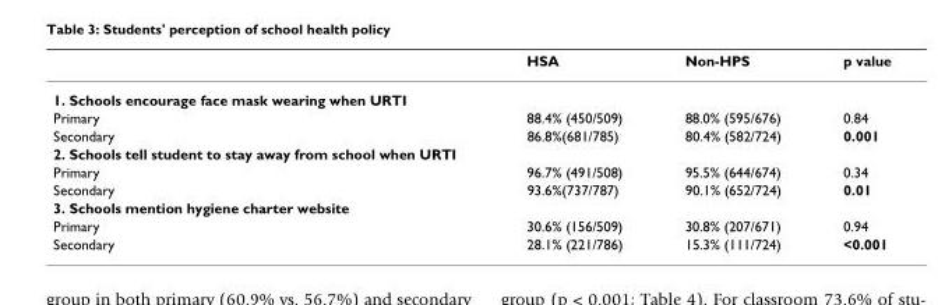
<table><thead><tr><td></td><td>HSA</td><td>Non-HPS</td><td>p value</td></tr></thead><tbody><tr><td colspan="4">1. Schools encourage face mask wearing when URTI</td></tr><tr><td>Primary</td><td>88.4% (450/509)</td><td>88.0% (595/676)</td><td>0.84</td></tr><tr><td>Secondary</td><td>86.8%(681/785)</td><td>80.4% (582/724)</td><td>0.001</td></tr><tr><td colspan="4">2. Schools tell student to stay away from school when URTI</td></tr><tr><td>Primary</td><td>96.7% (491/508)</td><td>95.5% (644/674)</td><td>0.34</td></tr><tr><td>Secondary</td><td>93.6%(737/787)</td><td>90.1% (652/724)</td><td>0.01</td></tr><tr><td colspan="4">3. Schools mention hygiene charter website</td></tr><tr><td>Primary</td><td>30.6% (156/509)</td><td>30.8% (207/671)</td><td>0.94</td></tr><tr><td>Secondary</td><td>28.1% (221/786)</td><td>15.3% (111/724)</td><td>&lt;0.001</td></tr></tbody></table>